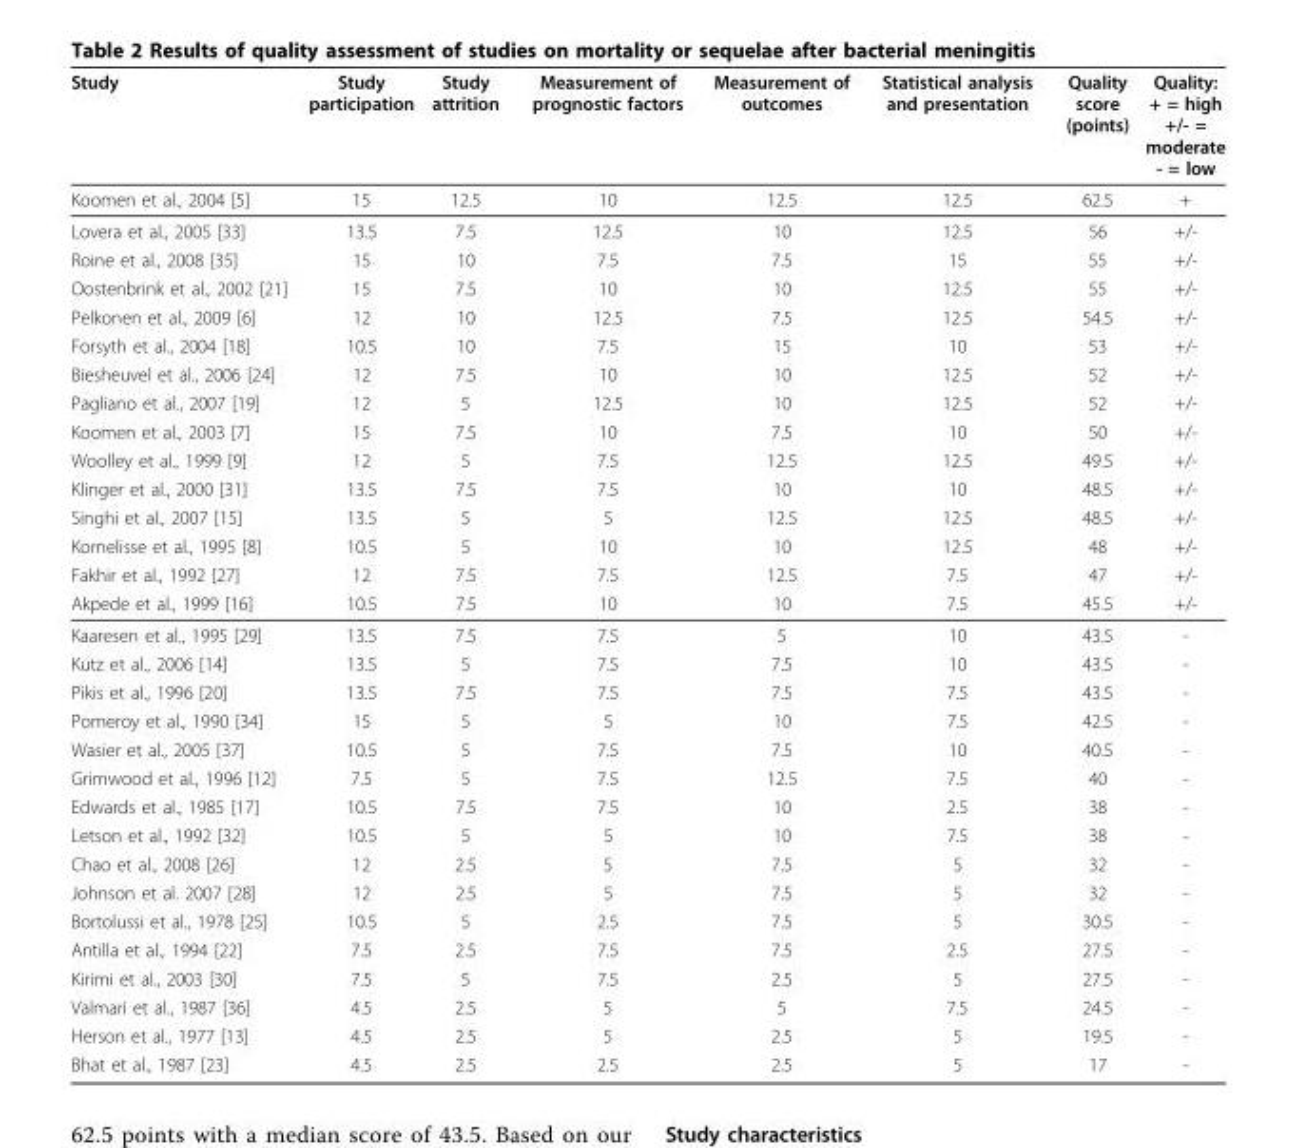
<table><thead><tr><td>Study</td><td>Study participation</td><td>Study attrition</td><td>Measurement of prognostic factors</td><td>Measurement of outcomes</td><td>Statistical analysis and presentation</td><td>Quality score (points)</td><td>Quality: + = high +/- = moderate - = low</td></tr></thead><tbody><tr><td>Koomen et al., 2004 [5]</td><td>15</td><td>12.5</td><td>10</td><td>12.5</td><td>12.5</td><td>62.5</td><td>+</td></tr><tr><td>Lovera et al., 2005 [33]</td><td>13.5</td><td>7.5</td><td>12.5</td><td>10</td><td>12.5</td><td>56</td><td>+/-</td></tr><tr><td>Roine et al., 2008 [35]</td><td>15</td><td>10</td><td>7.5</td><td>7.5</td><td>15</td><td>55</td><td>+/-</td></tr><tr><td>Oostenbrink et al., 2002 [21]</td><td>15</td><td>7.5</td><td>10</td><td>10</td><td>12.5</td><td>55</td><td>+/-</td></tr><tr><td>Pelkonen et al., 2009 [6]</td><td>12</td><td>10</td><td>12.5</td><td>7.5</td><td>12.5</td><td>54.5</td><td>+/-</td></tr><tr><td>Forsyth et al., 2004 [18]</td><td>10.5</td><td>10</td><td>7.5</td><td>15</td><td>10</td><td>53</td><td>+/-</td></tr><tr><td>Biesheuvel et al., 2006 [24]</td><td>12</td><td>7.5</td><td>10</td><td>10</td><td>12.5</td><td>52</td><td>+/-</td></tr><tr><td>Pagliano et al., 2007 [19]</td><td>12</td><td>5</td><td>12.5</td><td>10</td><td>12.5</td><td>52</td><td>+/-</td></tr><tr><td>Koomen et al., 2003 [7]</td><td>15</td><td>7.5</td><td>10</td><td>7.5</td><td>10</td><td>50</td><td>+/-</td></tr><tr><td>Woolley et al., 1999 [9]</td><td>12</td><td>5</td><td>7.5</td><td>12.5</td><td>12.5</td><td>49.5</td><td>+/-</td></tr><tr><td>Klinger et al., 2000 [31]</td><td>13.5</td><td>7.5</td><td>7.5</td><td>10</td><td>10</td><td>48.5</td><td>+/-</td></tr><tr><td>Singhi et al., 2007 [15]</td><td>13.5</td><td>5</td><td>5</td><td>12.5</td><td>12.5</td><td>48.5</td><td>+/-</td></tr><tr><td>Kornelisse et al., 1995 [8]</td><td>10.5</td><td>5</td><td>10</td><td>10</td><td>12.5</td><td>48</td><td>+/-</td></tr><tr><td>Fakhir et al., 1992 [27]</td><td>12</td><td>7.5</td><td>7.5</td><td>12.5</td><td>7.5</td><td>47</td><td>+/-</td></tr><tr><td>Akpede et al., 1999 [16]</td><td>10.5</td><td>7.5</td><td>10</td><td>10</td><td>7.5</td><td>45.5</td><td>+/-</td></tr><tr><td>Kaaresen et al., 1995 [29]</td><td>13.5</td><td>7.5</td><td>7.5</td><td>5</td><td>10</td><td>43.5</td><td>-</td></tr><tr><td>Kutz et al., 2006 [14]</td><td>13.5</td><td>5</td><td>7.5</td><td>7.5</td><td>10</td><td>43.5</td><td>-</td></tr><tr><td>Pikis et al., 1996 [20]</td><td>13.5</td><td>7.5</td><td>7.5</td><td>7.5</td><td>7.5</td><td>43.5</td><td>-</td></tr><tr><td>Pomeroy et al., 1990 [34]</td><td>15</td><td>5</td><td>5</td><td>10</td><td>7.5</td><td>42.5</td><td>-</td></tr><tr><td>Wasier et al., 2005 [37]</td><td>10.5</td><td>5</td><td>7.5</td><td>7.5</td><td>10</td><td>40.5</td><td>-</td></tr><tr><td>Grimwood et al., 1996 [12]</td><td>7.5</td><td>5</td><td>7.5</td><td>12.5</td><td>7.5</td><td>40</td><td>-</td></tr><tr><td>Edwards et al., 1985 [17]</td><td>10.5</td><td>7.5</td><td>7.5</td><td>10</td><td>2.5</td><td>38</td><td>-</td></tr><tr><td>Letson et al., 1992 [32]</td><td>10.5</td><td>5</td><td>5</td><td>10</td><td>7.5</td><td>38</td><td>-</td></tr><tr><td>Chao et al., 2008 [26]</td><td>12</td><td>2.5</td><td>5</td><td>7.5</td><td>5</td><td>32</td><td>-</td></tr><tr><td>Johnson et al. 2007 [28]</td><td>12</td><td>2.5</td><td>5</td><td>7.5</td><td>5</td><td>32</td><td>-</td></tr><tr><td>Bortolussi et al., 1978 [25]</td><td>10.5</td><td>5</td><td>2.5</td><td>7.5</td><td>5</td><td>30.5</td><td>-</td></tr><tr><td>Antilla et al., 1994 [22]</td><td>7.5</td><td>2.5</td><td>7.5</td><td>7.5</td><td>2.5</td><td>27.5</td><td>-</td></tr><tr><td>Kirimi et al., 2003 [30]</td><td>7.5</td><td>5</td><td>7.5</td><td>2.5</td><td>5</td><td>27.5</td><td>-</td></tr><tr><td>Valmari et al., 1987 [36]</td><td>4.5</td><td>2.5</td><td>5</td><td>5</td><td>7.5</td><td>24.5</td><td>-</td></tr><tr><td>Herson et al., 1977 [13]</td><td>4.5</td><td>2.5</td><td>5</td><td>2.5</td><td>5</td><td>19.5</td><td>-</td></tr><tr><td>Bhat et al., 1987 [23]</td><td>4.5</td><td>2.5</td><td>2.5</td><td>2.5</td><td>5</td><td>17</td><td>-</td></tr></tbody></table>